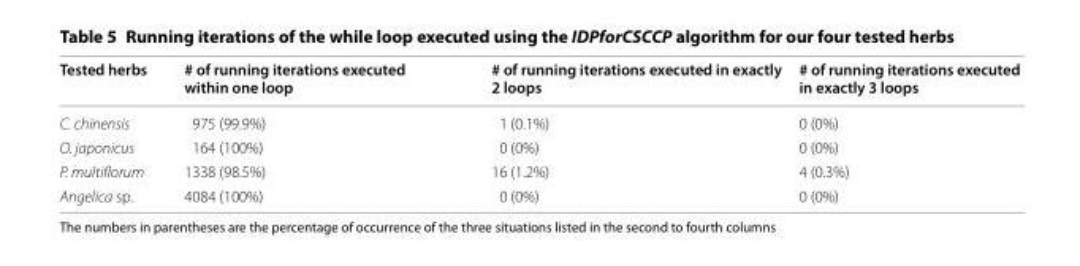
<table><thead><tr><td>Tested herbs</td><td># of running iterations executed within one loop</td><td># of running iterations executed in exactly 2 loops</td><td># of running iterations executed in exactly 3 loops</td></tr></thead><tbody><tr><td>C. chinensis</td><td>975 (99.9%)</td><td>1 (0.1%)</td><td>0 (0%)</td></tr><tr><td>O. japonicus</td><td>164 (100%)</td><td>0 (0%)</td><td>0 (0%)</td></tr><tr><td>P. multiflorum</td><td>1338 (98.5%)</td><td>16 (1.2%)</td><td>4 (0.3%)</td></tr><tr><td>Angelica sp.</td><td>4084 (100%)</td><td>0 (0%)</td><td>0 (0%)</td></tr></tbody></table>